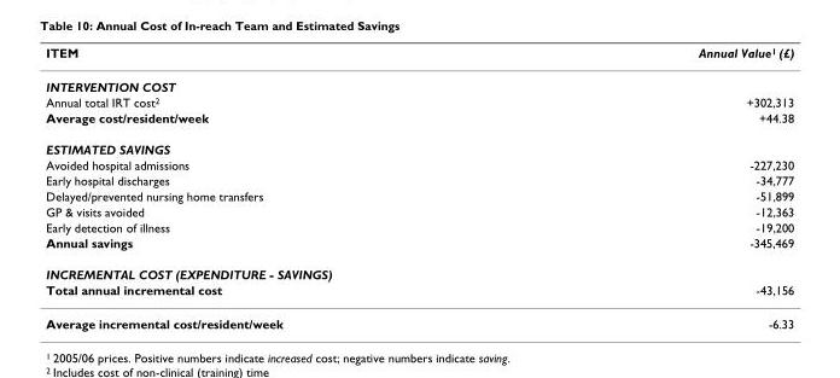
<table><thead><tr><td>ITEM</td><td>Annual Value<sup>1</sup> (£)</td></tr></thead><tbody><tr><td colspan="2">INTERVENTION COST</td></tr><tr><td>Annual total IRT cost<sup>2</sup></td><td>+302,313</td></tr><tr><td>Average cost/resident/week</td><td>+44.38</td></tr><tr><td colspan="2">ESTIMATED SAVINGS</td></tr><tr><td>Avoided hospital admissions</td><td>-227,230</td></tr><tr><td>Early hospital discharges</td><td>-34,777</td></tr><tr><td>Delayed/prevented nursing home transfers</td><td>-51,899</td></tr><tr><td>GP &amp; visits avoided</td><td>-12,363</td></tr><tr><td>Early detection of illness</td><td>-19,200</td></tr><tr><td>Annual savings</td><td>-345,469</td></tr><tr><td colspan="2">INCREMENTAL COST (EXPENDITURE - SAVINGS)</td></tr><tr><td>Total annual incremental cost</td><td>-43,156</td></tr><tr><td>Average incremental cost/resident/week</td><td>-6.33</td></tr></tbody></table>